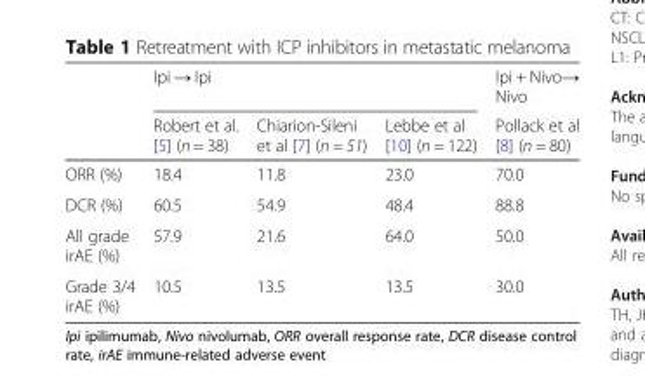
<table><thead><tr><td rowspan="2"></td><td colspan="3">Ipi → Ipi</td><td rowspan="2">Ipi + Nivo→ Nivo Pollack et al [8] (n = 80)</td></tr><tr><td>Robert et al. [5] (n = 38)</td><td>Chiarion-Sileni et al [7] (n = 51)</td><td>Lebbe et al [10] (n = 122)</td></tr></thead><tbody><tr><td>ORR (%)</td><td>18.4</td><td>11.8</td><td>23.0</td><td>70.0</td></tr><tr><td>DCR (%)</td><td>60.5</td><td>54.9</td><td>48.4</td><td>88.8</td></tr><tr><td>All grade irAE (%)</td><td>57.9</td><td>21.6</td><td>64.0</td><td>50.0</td></tr><tr><td>Grade 3/4 irAE (%)</td><td>10.5</td><td>13.5</td><td>13.5</td><td>30.0</td></tr></tbody></table>